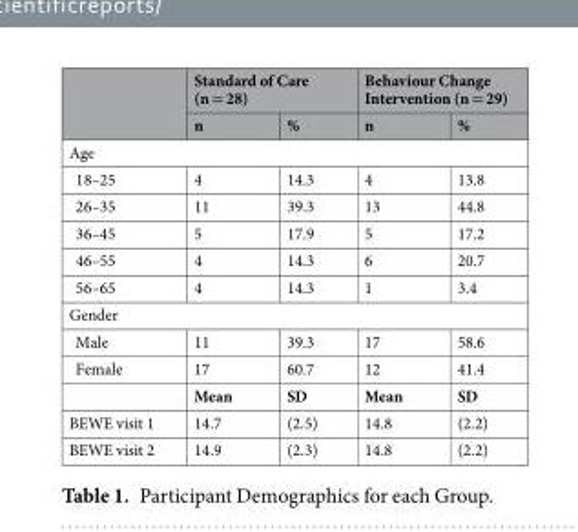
<table><thead><tr><td rowspan="2"></td><td colspan="2">Standard of Care (n = 28)</td><td colspan="2">Behaviour Change Intervention (n = 29)</td></tr><tr><td>n</td><td>%</td><td>n</td><td>%</td></tr></thead><tbody><tr><td colspan="5">Age</td></tr><tr><td>18–25</td><td>4</td><td>14.3</td><td>4</td><td>13.8</td></tr><tr><td>26–35</td><td>11</td><td>39.3</td><td>13</td><td>44.8</td></tr><tr><td>36–45</td><td>5</td><td>17.9</td><td>5</td><td>17.2</td></tr><tr><td>46–55</td><td>4</td><td>14.3</td><td>6</td><td>20.7</td></tr><tr><td>56–65</td><td>4</td><td>14.3</td><td>1</td><td>3.4</td></tr><tr><td colspan="5">Gender</td></tr><tr><td>Male</td><td>11</td><td>39.3</td><td>17</td><td>58.6</td></tr><tr><td rowspan="2">Female</td><td>17</td><td>60.7</td><td>12</td><td>41.4</td></tr><tr><td>Mean</td><td>SD</td><td>Mean</td><td>SD</td></tr><tr><td>BEWE visit 1</td><td>14.7</td><td>(2.5)</td><td>14.8</td><td>(2.2)</td></tr><tr><td>BEWE visit 2</td><td>14.9</td><td>(2.3)</td><td>14.8</td><td>(2.2)</td></tr></tbody></table>